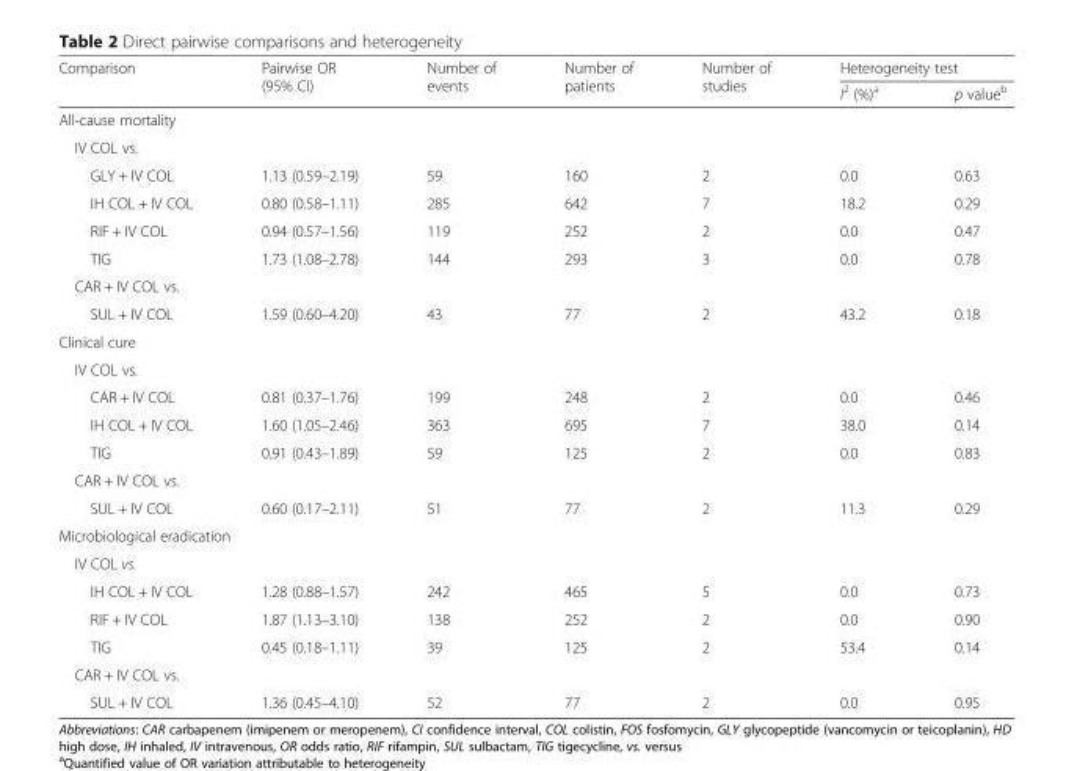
<table><thead><tr><td rowspan="2">Comparison</td><td rowspan="2">Pairwise OR (95% CI)</td><td rowspan="2">Number of events</td><td rowspan="2">Number of patients</td><td rowspan="2">Number of studies</td><td colspan="2">Heterogeneity test</td></tr><tr><td>I<sup>2</sup> (%)<sup>a</sup></td><td>p value<sup>b</sup></td></tr></thead><tbody><tr><td colspan="7">All-cause mortality</td></tr><tr><td colspan="7">IV COL vs.</td></tr><tr><td>GLY + IV COL</td><td>1.13 (0.59–2.19)</td><td>59</td><td>160</td><td>2</td><td>0.0</td><td>0.63</td></tr><tr><td>IH COL + IV COL</td><td>0.80 (0.58–1.11)</td><td>285</td><td>642</td><td>7</td><td>18.2</td><td>0.29</td></tr><tr><td>RIF + IV COL</td><td>0.94 (0.57–1.56)</td><td>119</td><td>252</td><td>2</td><td>0.0</td><td>0.47</td></tr><tr><td>TIG</td><td>1.73 (1.08–2.78)</td><td>144</td><td>293</td><td>3</td><td>0.0</td><td>0.78</td></tr><tr><td colspan="7">CAR + IV COL vs.</td></tr><tr><td>SUL + IV COL</td><td>1.59 (0.60–4.20)</td><td>43</td><td>77</td><td>2</td><td>43.2</td><td>0.18</td></tr><tr><td colspan="7">Clinical cure</td></tr><tr><td colspan="7">IV COL vs.</td></tr><tr><td>CAR + IV COL</td><td>0.81 (0.37–1.76)</td><td>199</td><td>248</td><td>2</td><td>0.0</td><td>0.46</td></tr><tr><td>IH COL + IV COL</td><td>1.60 (1.05–2.46)</td><td>363</td><td>695</td><td>7</td><td>38.0</td><td>0.14</td></tr><tr><td>TIG</td><td>0.91 (0.43–1.89)</td><td>59</td><td>125</td><td>2</td><td>0.0</td><td>0.83</td></tr><tr><td colspan="7">CAR + IV COL vs.</td></tr><tr><td>SUL + IV COL</td><td>0.60 (0.17–2.11)</td><td>51</td><td>77</td><td>2</td><td>11.3</td><td>0.29</td></tr><tr><td colspan="7">Microbiological eradication</td></tr><tr><td colspan="7">IV COL vs.</td></tr><tr><td>IH COL + IV COL</td><td>1.28 (0.88–1.57)</td><td>242</td><td>465</td><td>5</td><td>0.0</td><td>0.73</td></tr><tr><td>RIF + IV COL</td><td>1.87 (1.13–3.10)</td><td>138</td><td>252</td><td>2</td><td>0.0</td><td>0.90</td></tr><tr><td>TIG</td><td>0.45 (0.18–1.11)</td><td>39</td><td>125</td><td>2</td><td>53.4</td><td>0.14</td></tr><tr><td colspan="7">CAR + IV COL vs.</td></tr><tr><td>SUL + IV COL</td><td>1.36 (0.45–4.10)</td><td>52</td><td>77</td><td>2</td><td>0.0</td><td>0.95</td></tr></tbody></table>